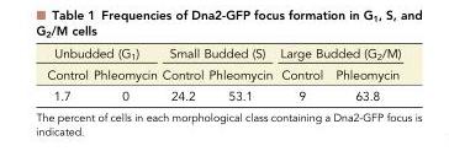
<table><thead><tr><td colspan="2">Unbudded (G<sub>1</sub>)</td><td colspan="2">Small Budded (S)</td><td colspan="2">Large Budded (G<sub>2</sub>/M)</td></tr><tr><td>Control</td><td>Phleomycin</td><td>Control</td><td>Phleomycin</td><td>Control</td><td>Phleomycin</td></tr></thead><tbody><tr><td>1.7</td><td>0</td><td>24.2</td><td>53.1</td><td>9</td><td>63.8</td></tr></tbody></table>